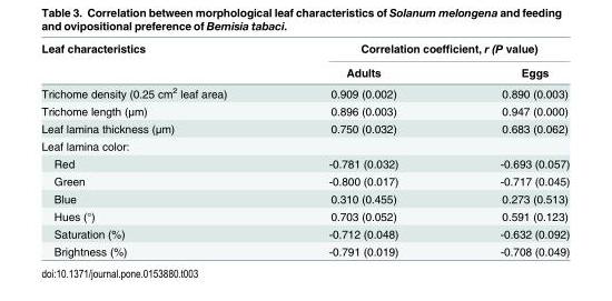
<table><thead><tr><td rowspan="2">Leaf characteristics</td><td colspan="2">Correlation coefficient, r (P value)</td></tr><tr><td>Adults</td><td>Eggs</td></tr></thead><tbody><tr><td>Trichome density (0.25 cm<sup>2</sup> leaf area)</td><td>0.909 (0.002)</td><td>0.890 (0.003)</td></tr><tr><td>Trichome length (μm)</td><td>0.896 (0.003)</td><td>0.947 (0.000)</td></tr><tr><td>Leaf lamina thickness (μm)</td><td>0.750 (0.032)</td><td>0.683 (0.062)</td></tr><tr><td colspan="3">Leaf lamina color:</td></tr><tr><td>Red</td><td>-0.781 (0.032)</td><td>-0.693 (0.057)</td></tr><tr><td>Green</td><td>-0.800 (0.017)</td><td>-0.717 (0.045)</td></tr><tr><td>Blue</td><td>0.310 (0.455)</td><td>0.273 (0.513)</td></tr><tr><td>Hues (°)</td><td>0.703 (0.052)</td><td>0.591 (0.123)</td></tr><tr><td>Saturation (%)</td><td>-0.712 (0.048)</td><td>-0.632 (0.092)</td></tr><tr><td>Brightness (%)</td><td>-0.791 (0.019)</td><td>-0.708 (0.049)</td></tr></tbody></table>